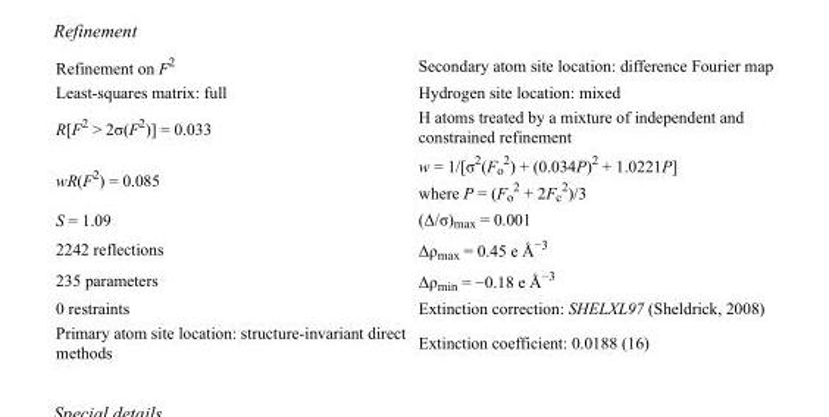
<table><tbody><tr><td>Refinement on F<sup>2</sup></td><td>Secondary atom site location: difference Fourier map</td></tr><tr><td>Least-squares matrix: full</td><td>Hydrogen site location: mixed</td></tr><tr><td>R[F<sup>2</sup> &gt; 2σ(F<sup>2</sup>)] = 0.033</td><td>H atoms treated by a mixture of independent and constrained refinement</td></tr><tr><td>wR(F<sup>2</sup>) = 0.085</td><td>w = 1/[σ<sup>2</sup>(F<sub>o</sub> <sup>2</sup>) + (0.034P)<sup>2</sup> + 1.0221P] where P = (F<sub>o</sub> <sup>2</sup> + 2F<sub>c</sub> <sup>2</sup>)/3</td></tr><tr><td>S = 1.09</td><td>(Δ/σ)<sub>max</sub> = 0.001</td></tr><tr><td>2242 reflections</td><td>Δρ<sub>max</sub> = 0.45 e Å<sup>−3</sup></td></tr><tr><td>235 parameters</td><td>Δρ<sub>min</sub> = −0.18 e Å<sup>−3</sup></td></tr><tr><td>0 restraints</td><td>Extinction correction: SHELXL97 (Sheldrick, 2008)</td></tr><tr><td>Primary atom site location: structure-invariant direct methods</td><td>Extinction coefficient: 0.0188 (16)</td></tr></tbody></table>